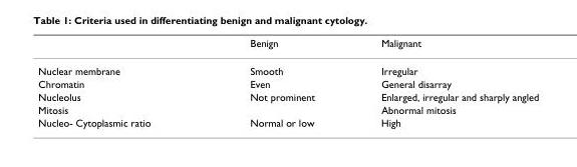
<table><thead><tr><td></td><td>Benign</td><td>Malignant</td></tr></thead><tbody><tr><td>Nuclear membrane</td><td>Smooth</td><td>Irregular</td></tr><tr><td>Chromatin</td><td>Even</td><td>General disarray</td></tr><tr><td>Nucleolus</td><td>Not prominent</td><td>Enlarged, irregular and sharply angled</td></tr><tr><td>Mitosis</td><td></td><td>Abnormal mitosis</td></tr><tr><td>Nucleo- Cytoplasmic ratio</td><td>Normal or low</td><td>High</td></tr></tbody></table>